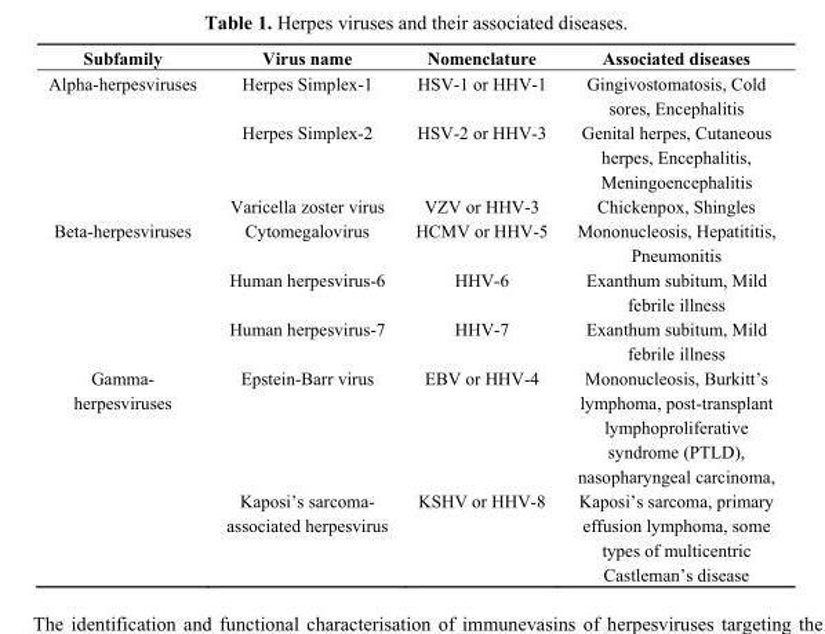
<table><thead><tr><td>Subfamily</td><td>Virus name</td><td>Nomenclature</td><td>Associated diseases</td></tr></thead><tbody><tr><td rowspan="3">Alpha-herpesviruses</td><td>Herpes Simplex-1</td><td>HSV-1 or HHV-1</td><td>Gingivostomatosis, Cold sores, Encephalitis</td></tr><tr><td>Herpes Simplex-2</td><td>HSV-2 or HHV-3</td><td>Genital herpes, Cutaneous herpes, Encephalitis, Meningoencephalitis</td></tr><tr><td>Varicella zoster virus</td><td>VZV or HHV-3</td><td>Chickenpox, Shingles</td></tr><tr><td rowspan="3">Beta-herpesviruses</td><td>Cytomegalovirus</td><td>HCMV or HHV-5</td><td>Mononucleosis, Hepatititis, Pneumonitis</td></tr><tr><td>Human herpesvirus-6</td><td>HHV-6</td><td>Exanthum subitum, Mild febrile illness</td></tr><tr><td>Human herpesvirus-7</td><td>HHV-7</td><td>Exanthum subitum, Mild febrile illness</td></tr><tr><td rowspan="2">Gamma- herpesviruses</td><td>Epstein-Barr virus</td><td>EBV or HHV-4</td><td>Mononucleosis, Burkitt’s lymphoma, post-transplant lymphoproliferative syndrome (PTLD), nasopharyngeal carcinoma,</td></tr><tr><td>Kaposi’s sarcoma- associated herpesvirus</td><td>KSHV or HHV-8</td><td>Kaposi’s sarcoma, primary effusion lymphoma, some types of multicentric Castleman’s disease</td></tr></tbody></table>